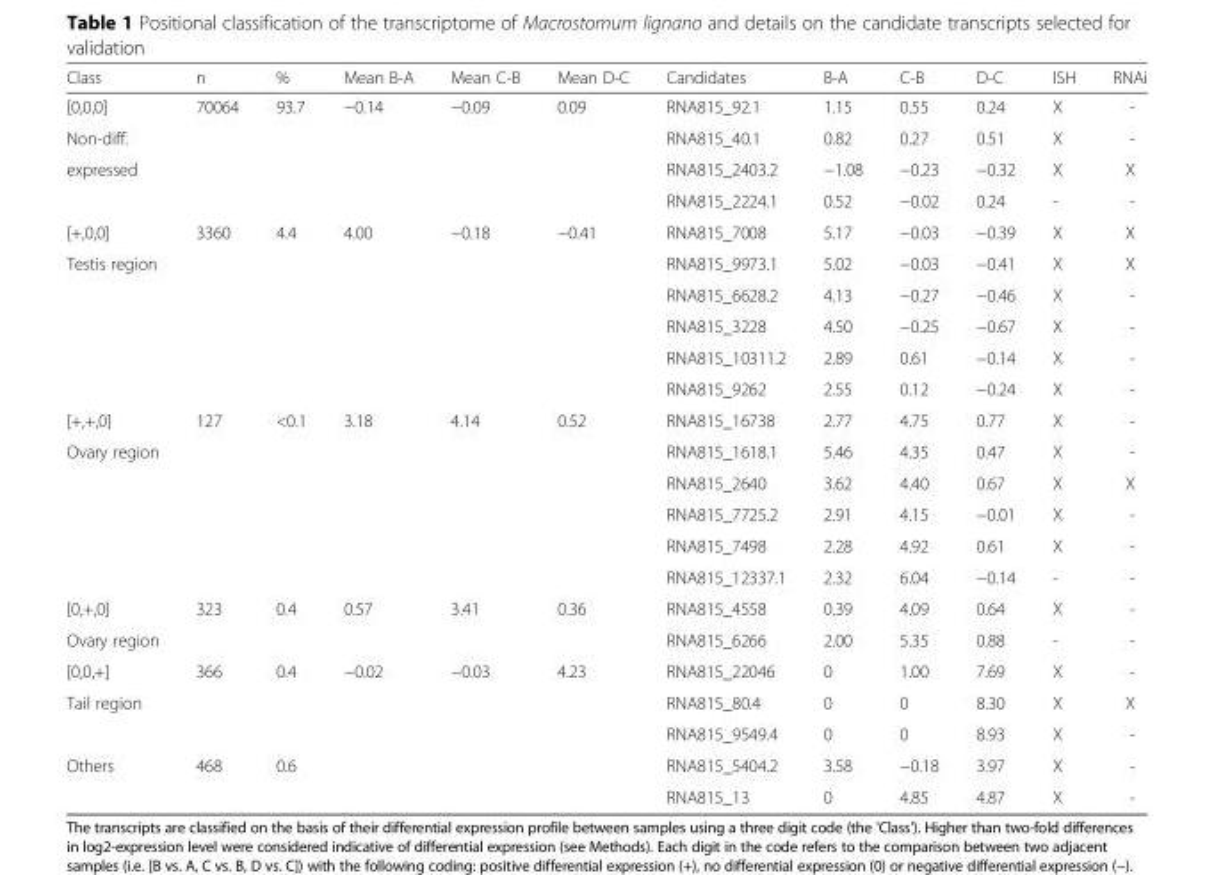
<table><thead><tr><td>Class</td><td>n</td><td>%</td><td>Mean B-A</td><td>Mean C-B</td><td>Mean D-C</td><td>Candidates</td><td>B-A</td><td>C-B</td><td>D-C</td><td>ISH</td><td>RNAi</td></tr></thead><tbody><tr><td>[0,0,0]</td><td>70064</td><td>93.7</td><td>−0.14</td><td>−0.09</td><td>0.09</td><td>RNA815_92.1</td><td>1.15</td><td>0.55</td><td>0.24</td><td>X</td><td>-</td></tr><tr><td>Non-diff.</td><td></td><td></td><td></td><td></td><td></td><td>RNA815_40.1</td><td>0.82</td><td>0.27</td><td>0.51</td><td>X</td><td>-</td></tr><tr><td rowspan="2">expressed</td><td></td><td></td><td></td><td></td><td></td><td>RNA815_2403.2</td><td>−1.08</td><td>−0.23</td><td>−0.32</td><td>X</td><td>X</td></tr><tr><td></td><td></td><td></td><td></td><td></td><td>RNA815_2224.1</td><td>0.52</td><td>−0.02</td><td>0.24</td><td>-</td><td>-</td></tr><tr><td>[+,0,0]</td><td>3360</td><td>4.4</td><td>4.00</td><td>−0.18</td><td>−0.41</td><td>RNA815_7008</td><td>5.17</td><td>−0.03</td><td>−0.39</td><td>X</td><td>X</td></tr><tr><td rowspan="5">Testis region</td><td></td><td></td><td></td><td></td><td></td><td>RNA815_9973.1</td><td>5.02</td><td>−0.03</td><td>−0.41</td><td>X</td><td>X</td></tr><tr><td></td><td></td><td></td><td></td><td></td><td>RNA815_6628.2</td><td>4.13</td><td>−0.27</td><td>−0.46</td><td>X</td><td>-</td></tr><tr><td></td><td></td><td></td><td></td><td></td><td>RNA815_3228</td><td>4.50</td><td>−0.25</td><td>−0.67</td><td>X</td><td>-</td></tr><tr><td></td><td></td><td></td><td></td><td></td><td>RNA815_10311.2</td><td>2.89</td><td>0.61</td><td>−0.14</td><td>X</td><td>-</td></tr><tr><td></td><td></td><td></td><td></td><td></td><td>RNA815_9262</td><td>2.55</td><td>0.12</td><td>−0.24</td><td>X</td><td>-</td></tr><tr><td>[+,+,0]</td><td>127</td><td>&lt;0.1</td><td>3.18</td><td>4.14</td><td>0.52</td><td>RNA815_16738</td><td>2.77</td><td>4.75</td><td>0.77</td><td>X</td><td>-</td></tr><tr><td rowspan="5">Ovary region</td><td></td><td></td><td></td><td></td><td></td><td>RNA815_1618.1</td><td>5.46</td><td>4.35</td><td>0.47</td><td>X</td><td>-</td></tr><tr><td></td><td></td><td></td><td></td><td></td><td>RNA815_2640</td><td>3.62</td><td>4.40</td><td>0.67</td><td>X</td><td>X</td></tr><tr><td></td><td></td><td></td><td></td><td></td><td>RNA815_7725.2</td><td>2.91</td><td>4.15</td><td>−0.01</td><td>X</td><td>-</td></tr><tr><td></td><td></td><td></td><td></td><td></td><td>RNA815_7498</td><td>2.28</td><td>4.92</td><td>0.61</td><td>X</td><td>-</td></tr><tr><td></td><td></td><td></td><td></td><td></td><td>RNA815_12337.1</td><td>2.32</td><td>6.04</td><td>−0.14</td><td>-</td><td>-</td></tr><tr><td>[0,+,0]</td><td>323</td><td>0.4</td><td>0.57</td><td>3.41</td><td>0.36</td><td>RNA815_4558</td><td>0.39</td><td>4.09</td><td>0.64</td><td>X</td><td>-</td></tr><tr><td>Ovary region</td><td></td><td></td><td></td><td></td><td></td><td>RNA815_6266</td><td>2.00</td><td>5.35</td><td>0.88</td><td>-</td><td>-</td></tr><tr><td>[0,0,+]</td><td>366</td><td>0.4</td><td>−0.02</td><td>−0.03</td><td>4.23</td><td>RNA815_22046</td><td>0</td><td>1.00</td><td>7.69</td><td>X</td><td>-</td></tr><tr><td rowspan="2">Tail region</td><td></td><td></td><td></td><td></td><td></td><td>RNA815_80.4</td><td>0</td><td>0</td><td>8.30</td><td>X</td><td>X</td></tr><tr><td></td><td></td><td></td><td></td><td></td><td>RNA815_9549.4</td><td>0</td><td>0</td><td>8.93</td><td>X</td><td>-</td></tr><tr><td rowspan="2">Others</td><td>468</td><td>0.6</td><td></td><td></td><td></td><td>RNA815_5404.2</td><td>3.58</td><td>−0.18</td><td>3.97</td><td>X</td><td>-</td></tr><tr><td></td><td></td><td></td><td></td><td></td><td>RNA815_13</td><td>0</td><td>4.85</td><td>4.87</td><td>X</td><td>-</td></tr></tbody></table>